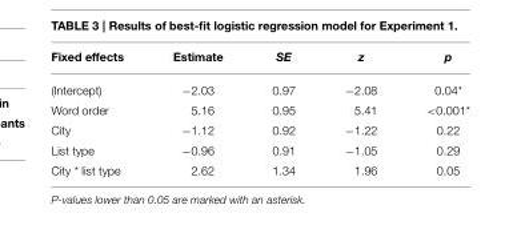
<table><thead><tr><td>Fixed effects</td><td>Estimate</td><td>SE</td><td>z</td><td>p</td></tr></thead><tbody><tr><td>(Intercept)</td><td>−2.03</td><td>0.97</td><td>−2.08</td><td>0.04*</td></tr><tr><td>Word order</td><td>5.16</td><td>0.95</td><td>5.41</td><td>&lt;0.001*</td></tr><tr><td>City</td><td>−1.12</td><td>0.92</td><td>−1.22</td><td>0.22</td></tr><tr><td>List type</td><td>−0.96</td><td>0.91</td><td>−1.05</td><td>0.29</td></tr><tr><td>City * list type</td><td>2.62</td><td>1.34</td><td>1.96</td><td>0.05</td></tr></tbody></table>